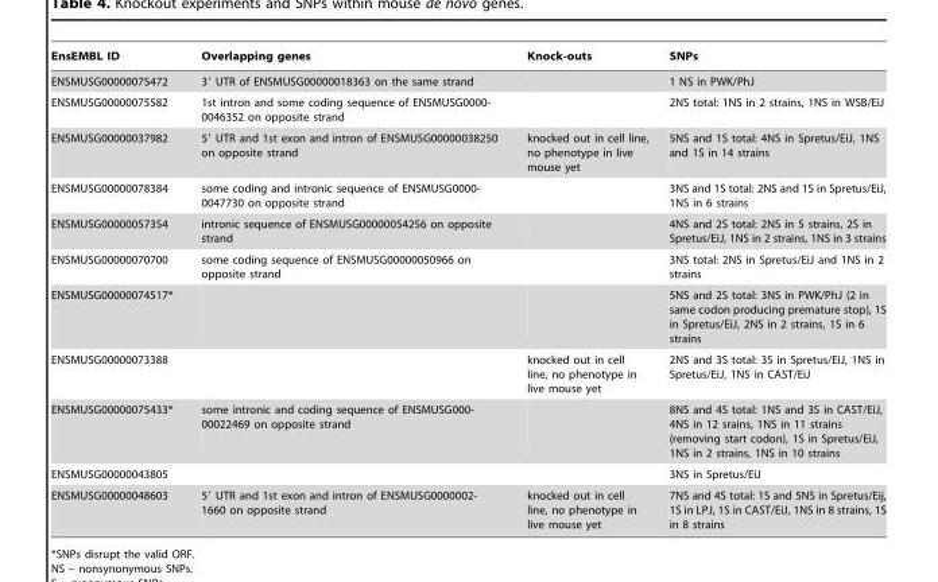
<table><thead><tr><td>EnsEMBL ID</td><td>Overlapping genes</td><td>Knock-outs</td><td>SNPs</td></tr></thead><tbody><tr><td>ENSMUSG00000075472</td><td>3′ UTR of ENSMUSG00000018363 on the same strand</td><td></td><td>1 NS in PWK/PhJ</td></tr><tr><td>ENSMUSG00000075582</td><td>1st intron and some coding sequence of ENSMUSG0000- 0046352 on opposite strand</td><td></td><td>2NS total: 1NS in 2 strains, 1NS in WSB/EiJ</td></tr><tr><td>ENSMUSG00000037982</td><td>5′ UTR and 1st exon and intron of ENSMUSG00000038250 on opposite strand</td><td>knocked out in cell line, no phenotype in live mouse yet</td><td>5NS and 1S total: 4NS in Spretus/EiJ, 1NS and 1S in 14 strains</td></tr><tr><td>ENSMUSG00000078384</td><td>some coding and intronic sequence of ENSMUSG0000- 0047730 on opposite strand</td><td></td><td>3NS and 1S total: 2NS and 1S in Spretus/EiJ, 1NS in 6 strains</td></tr><tr><td>ENSMUSG00000057354</td><td>intronic sequence of ENSMUSG00000054256 on opposite strand</td><td></td><td>4NS and 2S total: 2NS in 5 strains, 2S in Spretus/EiJ, 1NS in 2 strains, 1NS in 3 strains</td></tr><tr><td>ENSMUSG00000070700</td><td>some coding sequence of ENSMUSG00000050966 on opposite strand</td><td></td><td>3NS total: 2NS in Spretus/EiJ and 1NS in 2 strains</td></tr><tr><td>ENSMUSG00000074517*</td><td></td><td></td><td>5NS and 2S total: 3NS in PWK/PhJ (2 in same codon producing premature stop), 1S in Spretus/EiJ, 2NS in 2 strains, 1S in 6 strains</td></tr><tr><td>ENSMUSG00000073388</td><td></td><td>knocked out in cell line, no phenotype in live mouse yet</td><td>2NS and 3S total: 3S in Spretus/EiJ, 1NS in Spretus/EiJ, 1NS in CAST/EiJ</td></tr><tr><td>ENSMUSG00000075433*</td><td>some intronic and coding sequence of ENSMUSG000- 00022469 on opposite strand</td><td></td><td>8NS and 4S total: 1NS and 3S in CAST/EiJ, 4NS in 12 srains, 1NS in 11 strains (removing start codon), 1S in Spretus/EiJ, 1NS in 2 strains, 1NS in 10 strains</td></tr><tr><td>ENSMUSG00000043805</td><td></td><td></td><td>3NS in Spretus/EiJ</td></tr><tr><td>ENSMUSG00000048603</td><td>59 UTR and 1st exon and intron of ENSMUSG0000002- 1660 on opposite strand</td><td>knocked out in cell line, no phenotype in live mouse yet</td><td>7NS and 4S total: 1S and 5NS in Spretus/Eij, 1S in LPJ, 1S in CAST/EiJ, 1NS in 8 strains, 1S in 8 strains</td></tr></tbody></table>